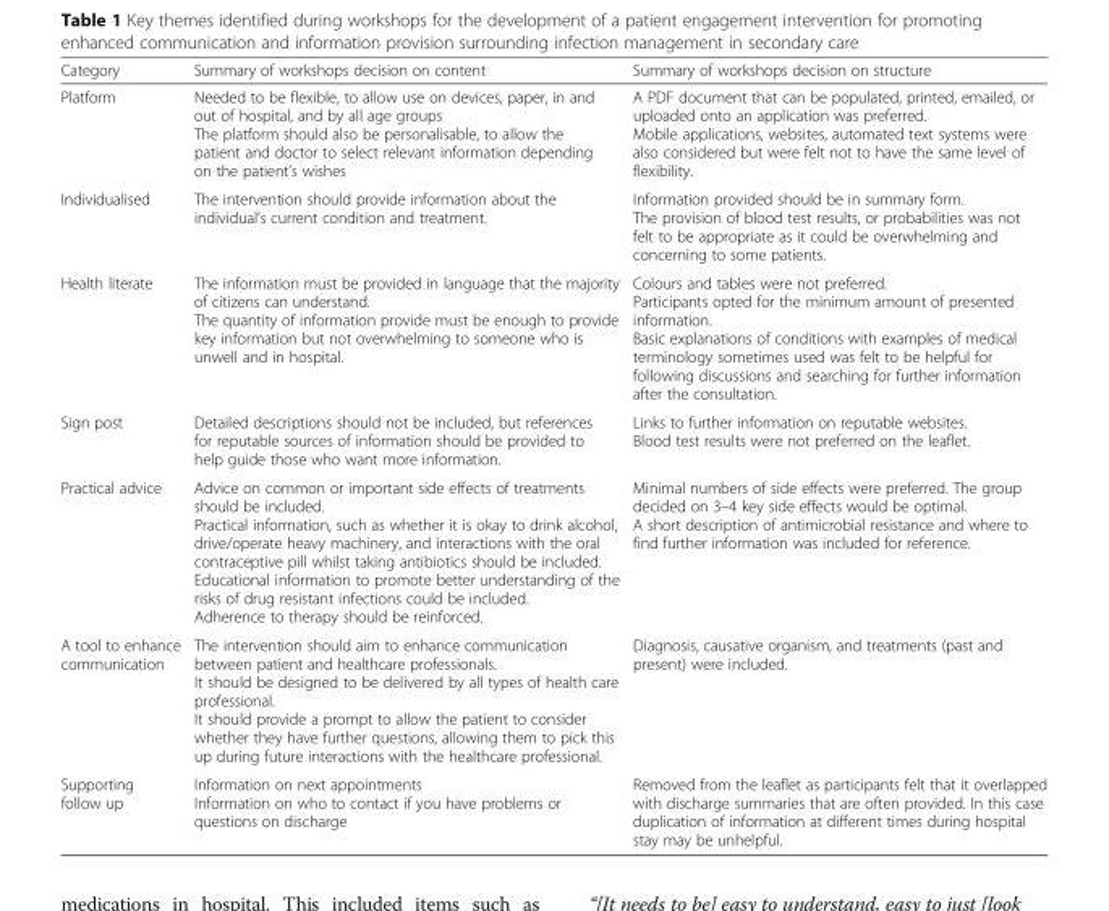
<table><thead><tr><td>Category</td><td>Summary of workshops decision on content</td><td>Summary of workshops decision on structure</td></tr></thead><tbody><tr><td>Platform</td><td>Needed to be flexible, to allow use on devices, paper, in and out of hospital, and by all age groups The platform should also be personalisable, to allow the patient and doctor to select relevant information depending on the patient’s wishes</td><td>A PDF document that can be populated, printed, emailed, or uploaded onto an application was preferred. Mobile applications, websites, automated text systems were also considered but were felt not to have the same level of flexibility.</td></tr><tr><td>Individualised</td><td>The intervention should provide information about the individual’s current condition and treatment.</td><td>Information provided should be in summary form. The provision of blood test results, or probabilities was not felt to be appropriate as it could be overwhelming and concerning to some patients.</td></tr><tr><td>Health literate</td><td>The information must be provided in language that the majority of citizens can understand. The quantity of information provide must be enough to provide key information but not overwhelming to someone who is unwell and in hospital.</td><td>Colours and tables were not preferred. Participants opted for the minimum amount of presented information. Basic explanations of conditions with examples of medical terminology sometimes used was felt to be helpful for following discussions and searching for further information after the consultation.</td></tr><tr><td>Sign post</td><td>Detailed descriptions should not be included, but references for reputable sources of information should be provided to help guide those who want more information.</td><td>Links to further information on reputable websites. Blood test results were not preferred on the leaflet.</td></tr><tr><td>Practical advice</td><td>Advice on common or important side effects of treatments should be included. Practical information, such as whether it is okay to drink alcohol, drive/operate heavy machinery, and interactions with the oral contraceptive pill whilst taking antibiotics should be included. Educational information to promote better understanding of the risks of drug resistant infections could be included. Adherence to therapy should be reinforced.</td><td>Minimal numbers of side effects were preferred. The group decided on 3–4 key side effects would be optimal. A short description of antimicrobial resistance and where to find further information was included for reference.</td></tr><tr><td>A tool to enhance communication</td><td>The intervention should aim to enhance communication between patient and healthcare professionals. It should be designed to be delivered by all types of health care professional. It should provide a prompt to allow the patient to consider whether they have further questions, allowing them to pick this up during future interactions with the healthcare professional.</td><td>Diagnosis, causative organism, and treatments (past and present) were included.</td></tr><tr><td>Supporting follow up</td><td>Information on next appointments Information on who to contact if you have problems or questions on discharge</td><td>Removed from the leaflet as participants felt that it overlapped with discharge summaries that are often provided. In this case duplication of information at different times during hospital stay may be unhelpful.</td></tr></tbody></table>